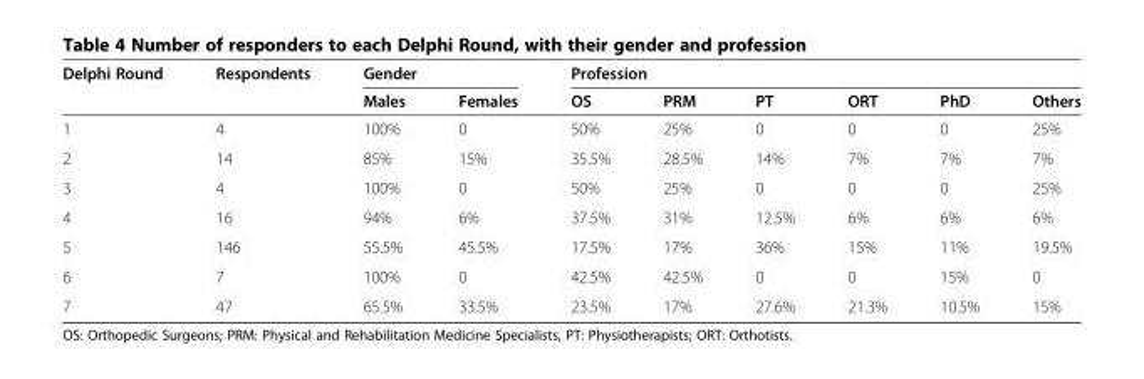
<table><thead><tr><td rowspan="2">Delphi Round</td><td rowspan="2">Respondents</td><td colspan="2">Gender</td><td colspan="6">Profession</td></tr><tr><td>Males</td><td>Females</td><td>OS</td><td>PRM</td><td>PT</td><td>ORT</td><td>PhD</td><td>Others</td></tr></thead><tbody><tr><td>1</td><td>4</td><td>100%</td><td>0</td><td>50%</td><td>25%</td><td>0</td><td>0</td><td>0</td><td>25%</td></tr><tr><td>2</td><td>14</td><td>85%</td><td>15%</td><td>35.5%</td><td>28.5%</td><td>14%</td><td>7%</td><td>7%</td><td>7%</td></tr><tr><td>3</td><td>4</td><td>100%</td><td>0</td><td>50%</td><td>25%</td><td>0</td><td>0</td><td>0</td><td>25%</td></tr><tr><td>4</td><td>16</td><td>94%</td><td>6%</td><td>37.5%</td><td>31%</td><td>12.5%</td><td>6%</td><td>6%</td><td>6%</td></tr><tr><td>5</td><td>146</td><td>55.5%</td><td>45.5%</td><td>17.5%</td><td>17%</td><td>36%</td><td>15%</td><td>11%</td><td>19.5%</td></tr><tr><td>6</td><td>7</td><td>100%</td><td>0</td><td>42.5%</td><td>42.5%</td><td>0</td><td>0</td><td>15%</td><td>0</td></tr><tr><td>7</td><td>47</td><td>65.5%</td><td>33.5%</td><td>23.5%</td><td>17%</td><td>27.6%</td><td>21.3%</td><td>10.5%</td><td>15%</td></tr></tbody></table>